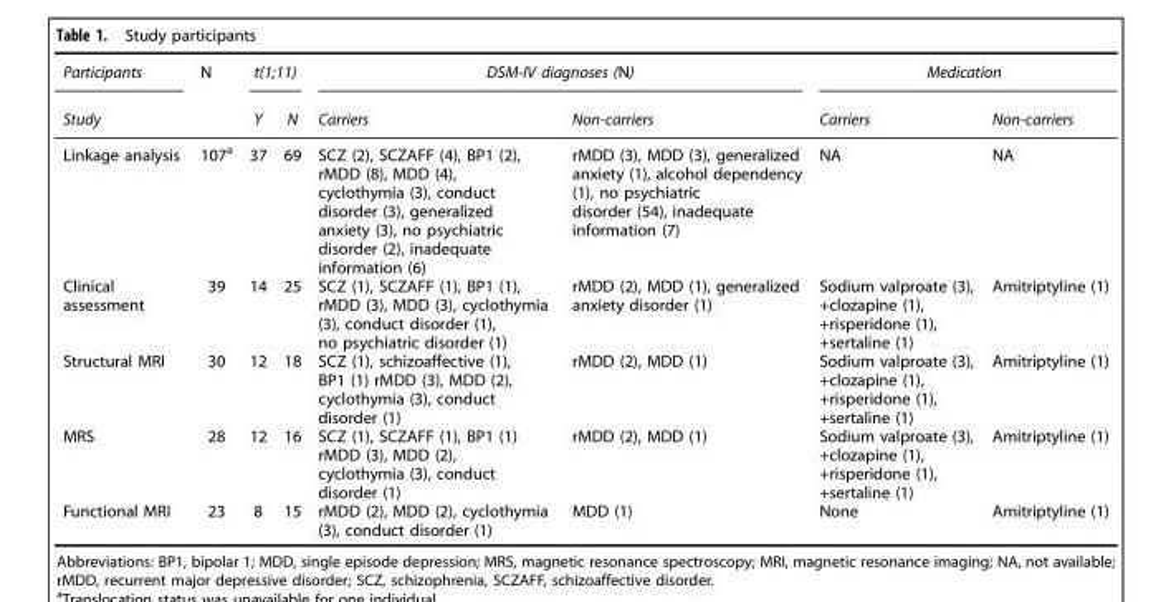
<table><thead><tr><td rowspan="2">Participants Study</td><td rowspan="2">N</td><td colspan="2">t(1;11)</td><td colspan="2">DSM-IV diagnoses (N)</td><td colspan="2">Medication</td></tr><tr><td>Y</td><td>N</td><td>Carriers</td><td>Non-carriers</td><td>Carriers</td><td>Non-carriers</td></tr></thead><tbody><tr><td>Linkage analysis</td><td>107<sup>a</sup></td><td>37</td><td>69</td><td>SCZ (2), SCZAFF (4), BP1 (2), rMDD (8), MDD (4), cyclothymia (3), conduct disorder (3), generalized anxiety (3), no psychiatric disorder (2), inadequate information (6)</td><td>rMDD (3), MDD (3), generalized anxiety (1), alcohol dependency (1), no psychiatric disorder (54), inadequate information (7)</td><td>NA</td><td>NA</td></tr><tr><td>Clinical assessment</td><td>39</td><td>14</td><td>25</td><td>SCZ (1), SCZAFF (1), BP1 (1), rMDD (3), MDD (3), cyclothymia (3), conduct disorder (1), no psychiatric disorder (1)</td><td>rMDD (2), MDD (1), generalized anxiety disorder (1)</td><td>Sodium valproate (3), +clozapine (1), +risperidone (1), +sertaline (1)</td><td>Amitriptyline (1)</td></tr><tr><td>Structural MRI</td><td>30</td><td>12</td><td>18</td><td>SCZ (1), schizoaffective (1), BP1 (1) rMDD (3), MDD (2), cyclothymia (3), conduct disorder (1)</td><td>rMDD (2), MDD (1)</td><td>Sodium valproate (3), +clozapine (1), +risperidone (1), +sertaline (1)</td><td>Amitriptyline (1)</td></tr><tr><td>MRS</td><td>28</td><td>12</td><td>16</td><td>SCZ (1), SCZAFF (1), BP1 (1) rMDD (3), MDD (2), cyclothymia (3), conduct disorder (1)</td><td>rMDD (2), MDD (1)</td><td>Sodium valproate (3), +clozapine (1), +risperidone (1), +sertaline (1)</td><td>Amitriptyline (1)</td></tr><tr><td>Functional MRI</td><td>23</td><td>8</td><td>15</td><td>rMDD (2), MDD (2), cyclothymia (3), conduct disorder (1)</td><td>MDD (1)</td><td>None</td><td>Amitriptyline (1)</td></tr></tbody></table>